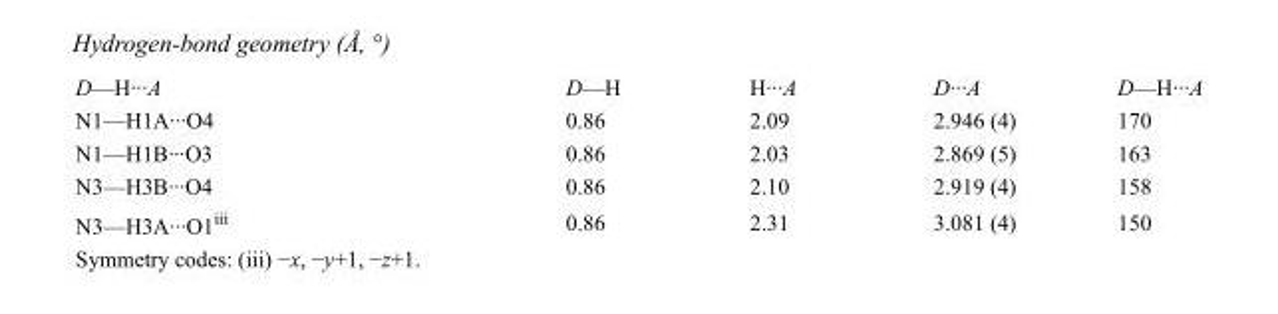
<table><tbody><tr><td>D—H···A</td><td>D—H</td><td>H···A</td><td>D···A</td><td>D—H···A</td></tr><tr><td>N1—H1A···O4</td><td>0.86</td><td>2.09</td><td>2.946 (4)</td><td>170</td></tr><tr><td>N1—H1B···O3</td><td>0.86</td><td>2.03</td><td>2.869 (5)</td><td>163</td></tr><tr><td>N3—H3B···O4</td><td>0.86</td><td>2.10</td><td>2.919 (4)</td><td>158</td></tr><tr><td>N3—H3A···O1<sup>iii</sup></td><td>0.86</td><td>2.31</td><td>3.081 (4)</td><td>150</td></tr></tbody></table>